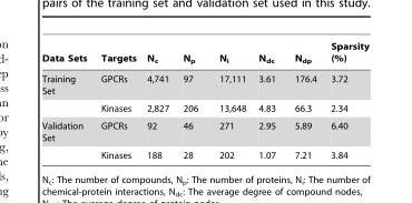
<table><thead><tr><td>Data Sets</td><td>Targets</td><td>N<sub>c</sub></td><td>N<sub>p</sub></td><td>N<sub>i</sub></td><td>N<sub>dc</sub></td><td>N<sub>dp</sub></td><td>Sparsity (%)</td></tr></thead><tbody><tr><td rowspan="2">Training Set</td><td>GPCRs</td><td>4,741</td><td>97</td><td>17,111</td><td>3.61</td><td>176.4</td><td>3.72</td></tr><tr><td>Kinases</td><td>2,827</td><td>206</td><td>13,648</td><td>4.83</td><td>66.3</td><td>2.34</td></tr><tr><td rowspan="2">Validation Set</td><td>GPCRs</td><td>92</td><td>46</td><td>271</td><td>2.95</td><td>5.89</td><td>6.40</td></tr><tr><td>Kinases</td><td>188</td><td>28</td><td>202</td><td>1.07</td><td>7.21</td><td>3.84</td></tr></tbody></table>